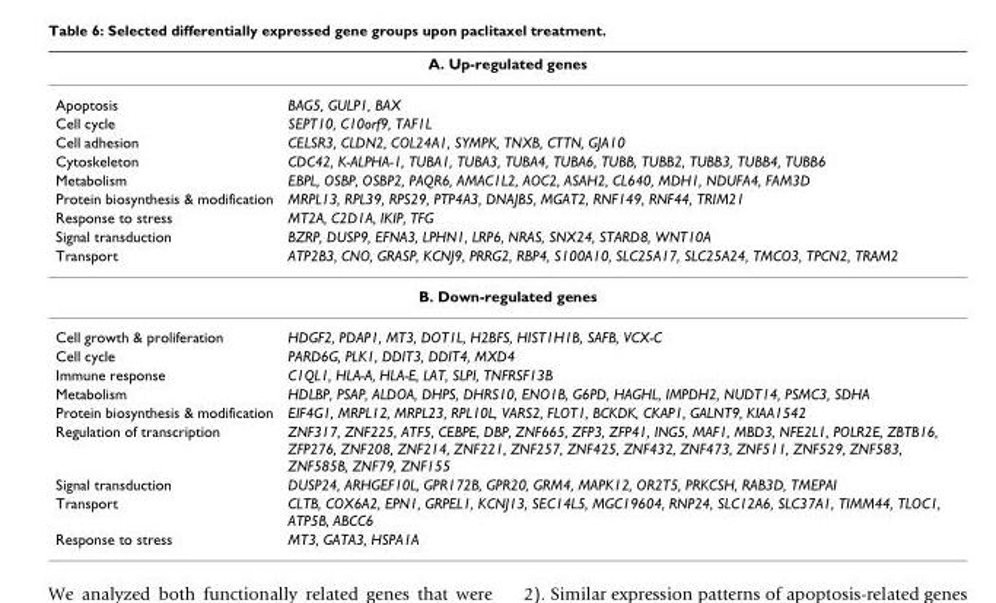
<table><thead><tr><td colspan="2">A. Up-regulated genes</td></tr><tr><td>Apoptosis</td><td>BAG5, GULP1, BAX</td></tr></thead><tbody><tr><td>Cell cycle</td><td>SEPT10, C10orf9, TAF1L</td></tr><tr><td>Cell adhesion</td><td>CELSR3, CLDN2, COL24A1, SYMPK, TNXB, CTTN, GJA10</td></tr><tr><td>Cytoskeleton</td><td>CDC42, K-ALPHA-1, TUBA1, TUBA3, TUBA4, TUBA6, TUBB, TUBB2, TUBB3, TUBB4, TUBB6</td></tr><tr><td>Metabolism</td><td>EBPL, OSBP, OSBP2, PAQR6, AMAC1L2, AOC2, ASAH2, CL640, MDH1, NDUFA4, FAM3D</td></tr><tr><td>Protein biosynthesis &amp; modification</td><td>MRPL13, RPL39, RPS29, PTP4A3, DNAJB5, MGAT2, RNF149, RNF44, TRIM21</td></tr><tr><td>Response to stress</td><td>MT2A, C2D1A, IKIP, TFG</td></tr><tr><td>Signal transduction</td><td>BZRP, DUSP9, EFNA3, LPHN1, LRP6, NRAS, SNX24, STARD8, WNT10A</td></tr><tr><td>Transport</td><td>ATP2B3, CNO, GRASP, KCNJ9, PRRG2, RBP4, S100A10, SLC25A17, SLC25A24, TMCO3, TPCN2, TRAM2</td></tr><tr><td colspan="2">B. Down-regulated genes</td></tr><tr><td>Cell growth &amp; proliferation</td><td>HDGF2, PDAP1, MT3, DOT1L, H2BFS, HIST1H1B, SAFB, VCX-C</td></tr><tr><td>Cell cycle</td><td>PARD6G, PLK1, DDIT3, DDIT4, MXD4</td></tr><tr><td>Immune response</td><td>C1QL1, HLA-A, HLA-E, LAT, SLPI, TNFRSF13B</td></tr><tr><td>Metabolism</td><td>HDLBP, PSAP, ALDOA, DHPS, DHRS10, ENO1B, G6PD, HAGHL, IMPDH2, NUDT14, PSMC3, SDHA</td></tr><tr><td>Protein biosynthesis &amp; modification</td><td>EIF4G1, MRPL12, MRPL23, RPL10L, VARS2, FLOT1, BCKDK, CKAP1, GALNT9, KIAA1542</td></tr><tr><td>Regulation of transcription</td><td>ZNF317, ZNF225, ATF5, CEBPE, DBP, ZNF665, ZFP3, ZFP41, ING5, MAF1, MBD3, NFE2L1, POLR2E, ZBTB16, ZFP276, ZNF208, ZNF214, ZNF221, ZNF257, ZNF425, ZNF432, ZNF473, ZNF511, ZNF529, ZNF583, ZNF585B, ZNF79, ZNF155</td></tr><tr><td>Signal transduction</td><td>DUSP24, ARHGEF10L, GPR172B, GPR20, GRM4, MAPK12, OR2T5, PRKCSH, RAB3D, TMEPAI</td></tr><tr><td>Transport</td><td>CLTB, COX6A2, EPN1, GRPEL1, KCNJ13, SEC14L5, MGC19604, RNP24, SLC12A6, SLC37A1, TIMM44, TLOC1, ATP5B, ABCC6</td></tr><tr><td>Response to stress</td><td>MT3, GATA3, HSPA1A</td></tr></tbody></table>